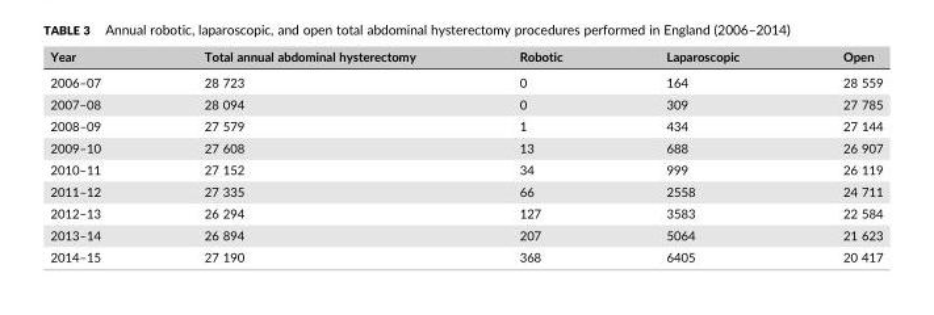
<table><thead><tr><td>Year</td><td>Total annual abdominal hysterectomy</td><td>Robotic</td><td>Laparoscopic</td><td>Open</td></tr></thead><tbody><tr><td>2006–07</td><td>28 723</td><td>0</td><td>164</td><td>28 559</td></tr><tr><td>2007–08</td><td>28 094</td><td>0</td><td>309</td><td>27 785</td></tr><tr><td>2008–09</td><td>27 579</td><td>1</td><td>434</td><td>27 144</td></tr><tr><td>2009–10</td><td>27 608</td><td>13</td><td>688</td><td>26 907</td></tr><tr><td>2010–11</td><td>27 152</td><td>34</td><td>999</td><td>26 119</td></tr><tr><td>2011–12</td><td>27 335</td><td>66</td><td>2558</td><td>24 711</td></tr><tr><td>2012–13</td><td>26 294</td><td>127</td><td>3583</td><td>22 584</td></tr><tr><td>2013–14</td><td>26 894</td><td>207</td><td>5064</td><td>21 623</td></tr><tr><td>2014–15</td><td>27 190</td><td>368</td><td>6405</td><td>20 417</td></tr></tbody></table>